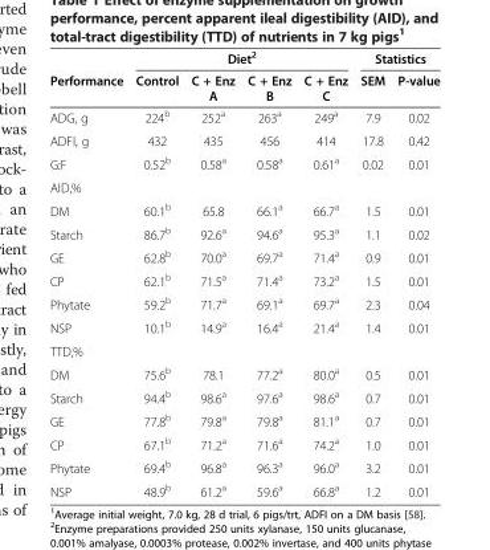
<table><thead><tr><td rowspan="2">Performance</td><td colspan="4">Diet<sup>2</sup></td><td colspan="2">Statistics</td></tr><tr><td>Control</td><td>C + Enz A</td><td>C + Enz B</td><td>C + Enz C</td><td>SEM</td><td>P-value</td></tr></thead><tbody><tr><td>ADG, g</td><td>224<sup>b</sup></td><td>252<sup>a</sup></td><td>263<sup>a</sup></td><td>249<sup>a</sup></td><td>7.9</td><td>0.02</td></tr><tr><td>ADFI, g</td><td>432</td><td>435</td><td>456</td><td>414</td><td>17.8</td><td>0.42</td></tr><tr><td>G:F</td><td>0.52<sup>b</sup></td><td>0.58<sup>a</sup></td><td>0.58<sup>a</sup></td><td>0.61<sup>a</sup></td><td>0.02</td><td>0.01</td></tr><tr><td colspan="7">AID,%</td></tr><tr><td>DM</td><td>60.1<sup>b</sup></td><td>65.8</td><td>66.1<sup>a</sup></td><td>66.7<sup>a</sup></td><td>1.5</td><td>0.01</td></tr><tr><td>Starch</td><td>86.7<sup>b</sup></td><td>92.6<sup>a</sup></td><td>94.6<sup>a</sup></td><td>95.3<sup>a</sup></td><td>1.1</td><td>0.02</td></tr><tr><td>GE</td><td>62.8<sup>b</sup></td><td>70.0<sup>a</sup></td><td>69.7<sup>a</sup></td><td>71.4<sup>a</sup></td><td>0.9</td><td>0.01</td></tr><tr><td>CP</td><td>62.1<sup>b</sup></td><td>71.5<sup>a</sup></td><td>71.4<sup>a</sup></td><td>73.2<sup>a</sup></td><td>1.5</td><td>0.01</td></tr><tr><td>Phytate</td><td>59.2<sup>b</sup></td><td>71.7<sup>a</sup></td><td>69.1<sup>a</sup></td><td>69.7<sup>a</sup></td><td>2.3</td><td>0.04</td></tr><tr><td>NSP</td><td>10.1<sup>b</sup></td><td>14.9<sup>a</sup></td><td>16.4<sup>a</sup></td><td>21.4<sup>a</sup></td><td>1.4</td><td>0.01</td></tr><tr><td colspan="7">TTD,%</td></tr><tr><td>DM</td><td>75.6<sup>b</sup></td><td>78.1</td><td>77.2<sup>a</sup></td><td>80.0<sup>a</sup></td><td>0.5</td><td>0.01</td></tr><tr><td>Starch</td><td>94.4<sup>b</sup></td><td>98.6<sup>a</sup></td><td>97.6<sup>a</sup></td><td>98.6<sup>a</sup></td><td>0.7</td><td>0.01</td></tr><tr><td>GE</td><td>77.8<sup>b</sup></td><td>79.8<sup>a</sup></td><td>79.8<sup>a</sup></td><td>81.1<sup>a</sup></td><td>0.7</td><td>0.01</td></tr><tr><td>CP</td><td>67.1<sup>b</sup></td><td>71.2<sup>a</sup></td><td>71.6<sup>a</sup></td><td>74.2<sup>a</sup></td><td>1.0</td><td>0.01</td></tr><tr><td>Phytate</td><td>69.4<sup>b</sup></td><td>96.8<sup>a</sup></td><td>96.3<sup>a</sup></td><td>96.0<sup>a</sup></td><td>3.2</td><td>0.01</td></tr><tr><td>NSP</td><td>48.9<sup>b</sup></td><td>61.2<sup>a</sup></td><td>59.6<sup>a</sup></td><td>66.8<sup>a</sup></td><td>1.2</td><td>0.01</td></tr></tbody></table>